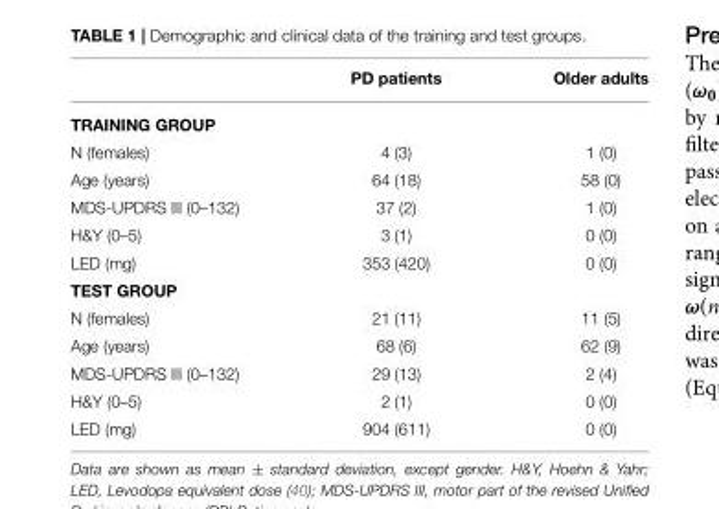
<table><thead><tr><td></td><td>PD patients</td><td>Older adults</td></tr></thead><tbody><tr><td colspan="3">TRAINING GROUP</td></tr><tr><td>N (females)</td><td>4 (3)</td><td>1 (0)</td></tr><tr><td>Age (years)</td><td>64 (18)</td><td>58 (0)</td></tr><tr><td>MDS-UPDRS III (0–132)</td><td>37 (2)</td><td>1 (0)</td></tr><tr><td>H&amp;Y (0–5)</td><td>3 (1)</td><td>0 (0)</td></tr><tr><td>LED (mg)</td><td>353 (420)</td><td>0 (0)</td></tr><tr><td colspan="3">TEST GROUP</td></tr><tr><td>N (females)</td><td>21 (11)</td><td>11 (5)</td></tr><tr><td>Age (years)</td><td>68 (6)</td><td>62 (9)</td></tr><tr><td>MDS-UPDRS III (0–132)</td><td>29 (13)</td><td>2 (4)</td></tr><tr><td>H&amp;Y (0–5)</td><td>2 (1)</td><td>0 (0)</td></tr><tr><td>LED (mg)</td><td>904 (611)</td><td>0 (0)</td></tr></tbody></table>